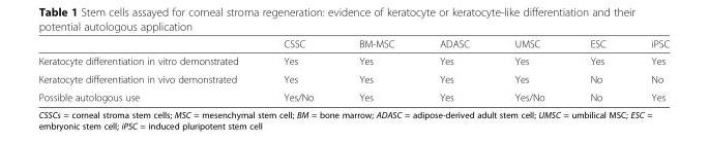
<table><thead><tr><td></td><td>CSSC</td><td>BM-MSC</td><td>ADASC</td><td>UMSC</td><td>ESC</td><td>iPSC</td></tr></thead><tbody><tr><td>Keratocyte differentiation in vitro demonstrated</td><td>Yes</td><td>Yes</td><td>Yes</td><td>Yes</td><td>Yes</td><td>Yes</td></tr><tr><td>Keratocyte differentiation in vivo demonstrated</td><td>Yes</td><td>Yes</td><td>Yes</td><td>Yes</td><td>No</td><td>No</td></tr><tr><td>Possible autologous use</td><td>Yes/No</td><td>Yes</td><td>Yes</td><td>Yes/No</td><td>No</td><td>Yes</td></tr></tbody></table>